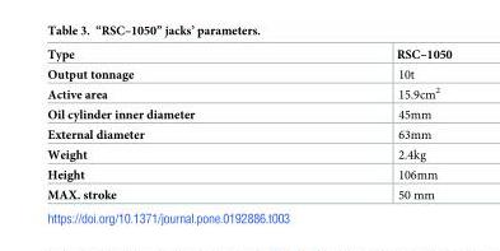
<table><thead><tr><td>Type</td><td>RSC–1050</td></tr></thead><tbody><tr><td>Output tonnage</td><td>10t</td></tr><tr><td>Active area</td><td>15.9cm<sup>2</sup></td></tr><tr><td>Oil cylinder inner diameter</td><td>45mm</td></tr><tr><td>External diameter</td><td>63mm</td></tr><tr><td>Weight</td><td>2.4kg</td></tr><tr><td>Height</td><td>106mm</td></tr><tr><td>MAX. stroke</td><td>50 mm</td></tr></tbody></table>